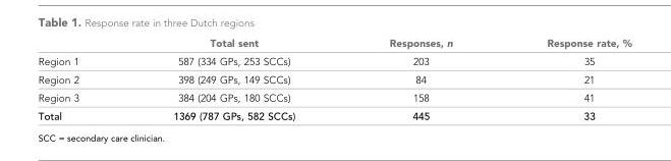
<table><thead><tr><td></td><td>Total sent</td><td>Responses, n</td><td>Response rate, %</td></tr></thead><tbody><tr><td>Region 1</td><td>587 (334 GPs, 253 SCCs)</td><td>203</td><td>35</td></tr><tr><td>Region 2</td><td>398 (249 GPs, 149 SCCs)</td><td>84</td><td>21</td></tr><tr><td>Region 3</td><td>384 (204 GPs, 180 SCCs)</td><td>158</td><td>41</td></tr><tr><td>Total</td><td>1369 (787 GPs, 582 SCCs)</td><td>445</td><td>33</td></tr></tbody></table>